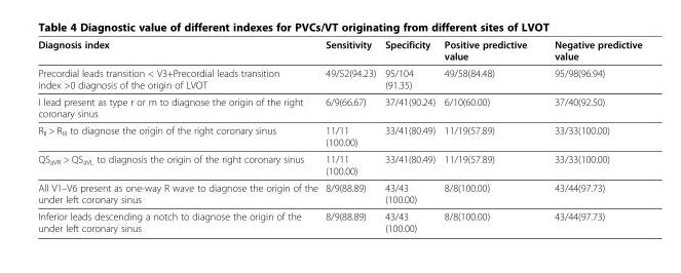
<table><thead><tr><td>Diagnosis index</td><td>Sensitivity</td><td>Specificity</td><td>Positive predictive value</td><td>Negative predictive value</td></tr></thead><tbody><tr><td>Precordial leads transition &lt; V3+Precordial leads transition index &gt;0 diagnosis of the origin of LVOT</td><td>49/52(94.23)</td><td>95/104 (91.35)</td><td>49/58(84.48)</td><td>95/98(96.94)</td></tr><tr><td>I lead present as type r or m to diagnose the origin of the right coronary sinus</td><td>6/9(66.67)</td><td>37/41(90.24)</td><td>6/10(60.00)</td><td>37/40(92.50)</td></tr><tr><td>R<sub>II</sub> &gt; R<sub>III</sub> to diagnose the origin of the right coronary sinus</td><td>11/11 (100.00)</td><td>33/41(80.49)</td><td>11/19(57.89)</td><td>33/33(100.00)</td></tr><tr><td>QS<sub>aVR</sub> &gt; QS<sub>aVL</sub> to diagnosis the origin of the right coronary sinus</td><td>11/11 (100.00)</td><td>33/41(80.49)</td><td>11/19(57.89)</td><td>33/33(100.00)</td></tr><tr><td>All V1–V6 present as one-way R wave to diagnose the origin of the under left coronary sinus</td><td>8/9(88.89)</td><td>43/43 (100.00)</td><td>8/8(100.00)</td><td>43/44(97.73)</td></tr><tr><td>Inferior leads descending a notch to diagnose the origin of the under left coronary sinus</td><td>8/9(88.89)</td><td>43/43 (100.00)</td><td>8/8(100.00)</td><td>43/44(97.73)</td></tr></tbody></table>